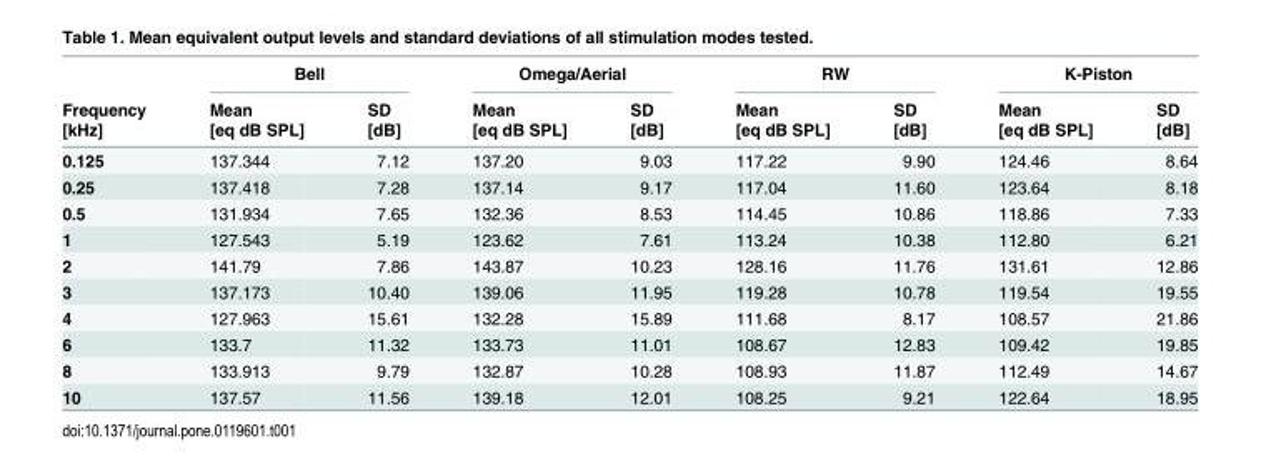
<table><thead><tr><td rowspan="3">Frequency [kHz]</td><td colspan="2">Bell</td><td colspan="2">Omega/Aerial</td><td colspan="2">RW</td><td colspan="2">K-Piston</td></tr><tr><td rowspan="2">Mean [eq dB SPL]</td><td rowspan="2">SD [dB]</td><td rowspan="2">Mean [eq dB SPL]</td><td rowspan="2">SD [dB]</td><td rowspan="2">Mean [eq dB SPL]</td><td rowspan="2">SD [dB]</td><td rowspan="2">Mean [eq dB SPL]</td><td rowspan="2">SD [dB]</td></tr><tr></tr></thead><tbody><tr><td>0.125</td><td>137.344</td><td>7.12</td><td>137.20</td><td>9.03</td><td>117.22</td><td>9.90</td><td>124.46</td><td>8.64</td></tr><tr><td>0.25</td><td>137.418</td><td>7.28</td><td>137.14</td><td>9.17</td><td>117.04</td><td>11.60</td><td>123.64</td><td>8.18</td></tr><tr><td>0.5</td><td>131.934</td><td>7.65</td><td>132.36</td><td>8.53</td><td>114.45</td><td>10.86</td><td>118.86</td><td>7.33</td></tr><tr><td>1</td><td>127.543</td><td>5.19</td><td>123.62</td><td>7.61</td><td>113.24</td><td>10.38</td><td>112.80</td><td>6.21</td></tr><tr><td>2</td><td>141.79</td><td>7.86</td><td>143.87</td><td>10.23</td><td>128.16</td><td>11.76</td><td>131.61</td><td>12.86</td></tr><tr><td>3</td><td>137.173</td><td>10.40</td><td>139.06</td><td>11.95</td><td>119.28</td><td>10.78</td><td>119.54</td><td>19.55</td></tr><tr><td>4</td><td>127.963</td><td>15.61</td><td>132.28</td><td>15.89</td><td>111.68</td><td>8.17</td><td>108.57</td><td>21.86</td></tr><tr><td>6</td><td>133.7</td><td>11.32</td><td>133.73</td><td>11.01</td><td>108.67</td><td>12.83</td><td>109.42</td><td>19.85</td></tr><tr><td>8</td><td>133.913</td><td>9.79</td><td>132.87</td><td>10.28</td><td>108.93</td><td>11.87</td><td>112.49</td><td>14.67</td></tr><tr><td>10</td><td>137.57</td><td>11.56</td><td>139.18</td><td>12.01</td><td>108.25</td><td>9.21</td><td>122.64</td><td>18.95</td></tr></tbody></table>